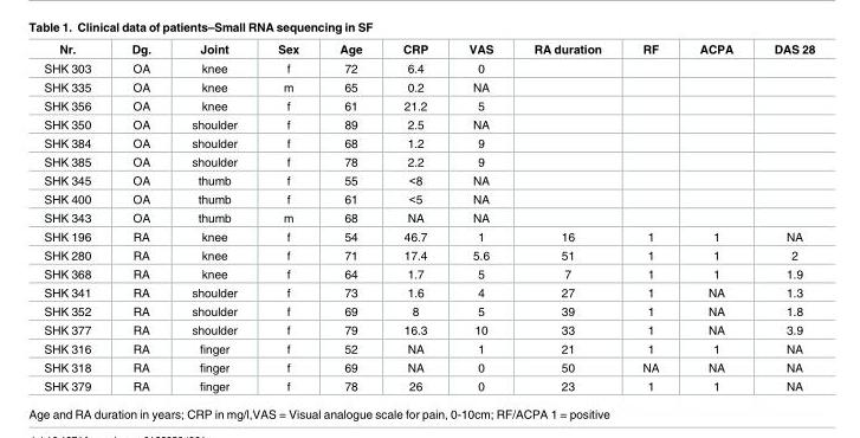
<table><thead><tr><td>Nr.</td><td>Dg.</td><td>Joint</td><td>Sex</td><td>Age</td><td>CRP</td><td>VAS</td><td>RA duration</td><td>RF</td><td>ACPA</td><td>DAS 28</td></tr></thead><tbody><tr><td>SHK 303</td><td>OA</td><td>knee</td><td>f</td><td>72</td><td>6.4</td><td>0</td><td></td><td></td><td></td><td></td></tr><tr><td>SHK 335</td><td>OA</td><td>knee</td><td>m</td><td>65</td><td>0.2</td><td>NA</td><td></td><td></td><td></td><td></td></tr><tr><td>SHK 356</td><td>OA</td><td>knee</td><td>f</td><td>61</td><td>21.2</td><td>5</td><td></td><td></td><td></td><td></td></tr><tr><td>SHK 350</td><td>OA</td><td>shoulder</td><td>f</td><td>89</td><td>2.5</td><td>NA</td><td></td><td></td><td></td><td></td></tr><tr><td>SHK 384</td><td>OA</td><td>shoulder</td><td>f</td><td>68</td><td>1.2</td><td>9</td><td></td><td></td><td></td><td></td></tr><tr><td>SHK 385</td><td>OA</td><td>shoulder</td><td>f</td><td>78</td><td>2.2</td><td>9</td><td></td><td></td><td></td><td></td></tr><tr><td>SHK 345</td><td>OA</td><td>thumb</td><td>f</td><td>55</td><td>&lt;8</td><td>NA</td><td></td><td></td><td></td><td></td></tr><tr><td>SHK 400</td><td>OA</td><td>thumb</td><td>f</td><td>61</td><td>&lt;5</td><td>NA</td><td></td><td></td><td></td><td></td></tr><tr><td>SHK 343</td><td>OA</td><td>thumb</td><td>m</td><td>68</td><td>NA</td><td>NA</td><td></td><td></td><td></td><td></td></tr><tr><td>SHK 196</td><td>RA</td><td>knee</td><td>f</td><td>54</td><td>46.7</td><td>1</td><td>16</td><td>1</td><td>1</td><td>NA</td></tr><tr><td>SHK 280</td><td>RA</td><td>knee</td><td>f</td><td>71</td><td>17.4</td><td>5.6</td><td>51</td><td>1</td><td>1</td><td>2</td></tr><tr><td>SHK 368</td><td>RA</td><td>knee</td><td>f</td><td>64</td><td>1.7</td><td>5</td><td>7</td><td>1</td><td>1</td><td>1.9</td></tr><tr><td>SHK 341</td><td>RA</td><td>shoulder</td><td>f</td><td>73</td><td>1.6</td><td>4</td><td>27</td><td>1</td><td>NA</td><td>1.3</td></tr><tr><td>SHK 352</td><td>RA</td><td>shoulder</td><td>f</td><td>69</td><td>8</td><td>5</td><td>39</td><td>1</td><td>NA</td><td>1.8</td></tr><tr><td>SHK 377</td><td>RA</td><td>shoulder</td><td>f</td><td>79</td><td>16.3</td><td>10</td><td>33</td><td>1</td><td>NA</td><td>3.9</td></tr><tr><td>SHK 316</td><td>RA</td><td>finger</td><td>f</td><td>52</td><td>NA</td><td>1</td><td>21</td><td>1</td><td>1</td><td>NA</td></tr><tr><td>SHK 318</td><td>RA</td><td>finger</td><td>f</td><td>69</td><td>NA</td><td>0</td><td>50</td><td>NA</td><td>NA</td><td>NA</td></tr><tr><td>SHK 379</td><td>RA</td><td>finger</td><td>f</td><td>78</td><td>26</td><td>0</td><td>23</td><td>1</td><td>1</td><td>NA</td></tr></tbody></table>